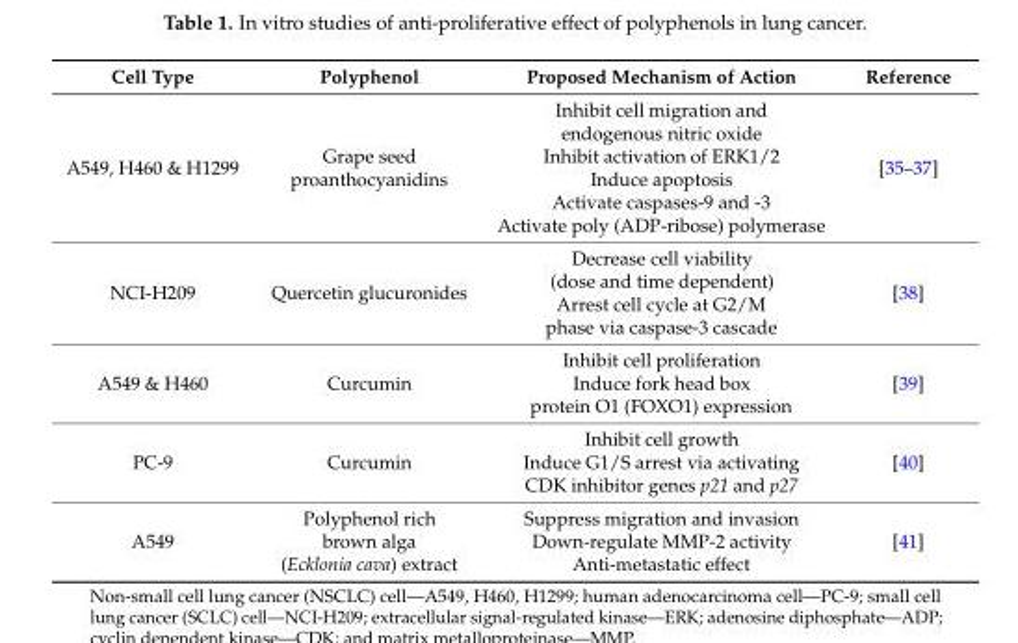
<table><thead><tr><td>Cell Type</td><td>Polyphenol</td><td>Proposed Mechanism of Action</td><td>Reference</td></tr></thead><tbody><tr><td>A549, H460 &amp; H1299</td><td>Grape seed proanthocyanidins</td><td>Inhibit cell migration and endogenous nitric oxide Inhibit activation of ERK1/2 Induce apoptosis Activate caspases-9 and -3 Activate poly (ADP-ribose) polymerase</td><td>[35–37]</td></tr><tr><td>NCI-H209</td><td>Quercetin glucuronides</td><td>Decrease cell viability (dose and time dependent) Arrest cell cycle at G2/M phase via caspase-3 cascade</td><td>[38]</td></tr><tr><td>A549 &amp; H460</td><td>Curcumin</td><td>Inhibit cell proliferation Induce fork head box protein O1 (FOXO1) expression</td><td>[39]</td></tr><tr><td>PC-9</td><td>Curcumin</td><td>Inhibit cell growth Induce G1/S arrest via activating CDK inhibitor genes p21 and p27</td><td>[40]</td></tr><tr><td>A549</td><td>Polyphenol rich brown alga (Ecklonia cava) extract</td><td>Suppress migration and invasion Down-regulate MMP-2 activity Anti-metastatic effect</td><td>[41]</td></tr></tbody></table>